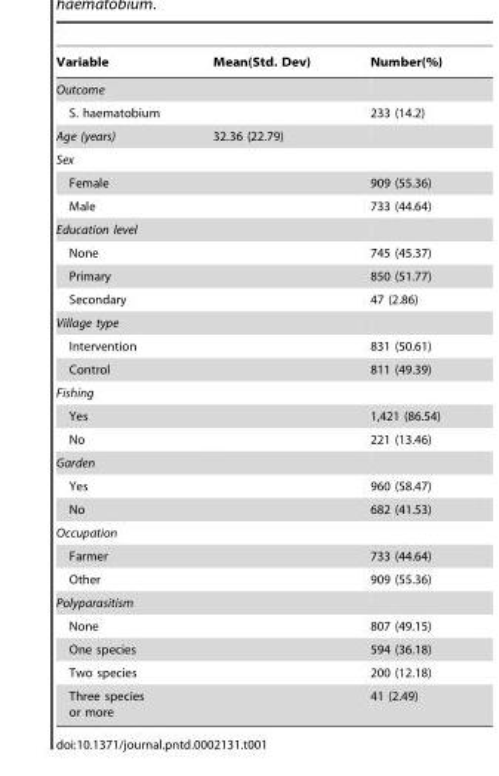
<table><thead><tr><td>Variable</td><td>Mean(Std. Dev)</td><td>Number(%)</td></tr></thead><tbody><tr><td colspan="3">Outcome</td></tr><tr><td>S. haematobium</td><td></td><td>233 (14.2)</td></tr><tr><td>Age (years)</td><td>32.36 (22.79)</td><td></td></tr><tr><td colspan="3">Sex</td></tr><tr><td>Female</td><td></td><td>909 (55.36)</td></tr><tr><td>Male</td><td></td><td>733 (44.64)</td></tr><tr><td colspan="3">Education level</td></tr><tr><td>None</td><td></td><td>745 (45.37)</td></tr><tr><td>Primary</td><td></td><td>850 (51.77)</td></tr><tr><td>Secondary</td><td></td><td>47 (2.86)</td></tr><tr><td colspan="3">Village type</td></tr><tr><td>Intervention</td><td></td><td>831 (50.61)</td></tr><tr><td>Control</td><td></td><td>811 (49.39)</td></tr><tr><td colspan="3">Fishing</td></tr><tr><td>Yes</td><td></td><td>1,421 (86.54)</td></tr><tr><td>No</td><td></td><td>221 (13.46)</td></tr><tr><td colspan="3">Garden</td></tr><tr><td>Yes</td><td></td><td>960 (58.47)</td></tr><tr><td>No</td><td></td><td>682 (41.53)</td></tr><tr><td colspan="3">Occupation</td></tr><tr><td>Farmer</td><td></td><td>733 (44.64)</td></tr><tr><td>Other</td><td></td><td>909 (55.36)</td></tr><tr><td colspan="3">Polyparasitism</td></tr><tr><td>None</td><td></td><td>807 (49.15)</td></tr><tr><td>One species</td><td></td><td>594 (36.18)</td></tr><tr><td>Two species</td><td></td><td>200 (12.18)</td></tr><tr><td>Three species or more</td><td></td><td>41 (2.49)</td></tr></tbody></table>